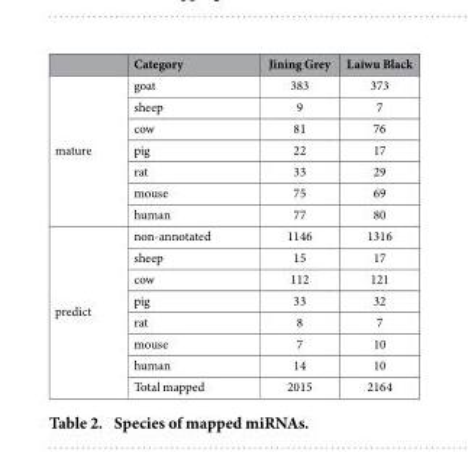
<table><thead><tr><td></td><td>Category</td><td>Jining Grey</td><td>Laiwu Black</td></tr></thead><tbody><tr><td rowspan="7">mature</td><td>goat</td><td>383</td><td>373</td></tr><tr><td>sheep</td><td>9</td><td>7</td></tr><tr><td>cow</td><td>81</td><td>76</td></tr><tr><td>pig</td><td>22</td><td>17</td></tr><tr><td>rat</td><td>33</td><td>29</td></tr><tr><td>mouse</td><td>75</td><td>69</td></tr><tr><td>human</td><td>77</td><td>80</td></tr><tr><td rowspan="8">predict</td><td>non-annotated</td><td>1146</td><td>1316</td></tr><tr><td>sheep</td><td>15</td><td>17</td></tr><tr><td>cow</td><td>112</td><td>121</td></tr><tr><td>pig</td><td>33</td><td>32</td></tr><tr><td>rat</td><td>8</td><td>7</td></tr><tr><td>mouse</td><td>7</td><td>10</td></tr><tr><td>human</td><td>14</td><td>10</td></tr><tr><td>Total mapped</td><td>2015</td><td>2164</td></tr></tbody></table>